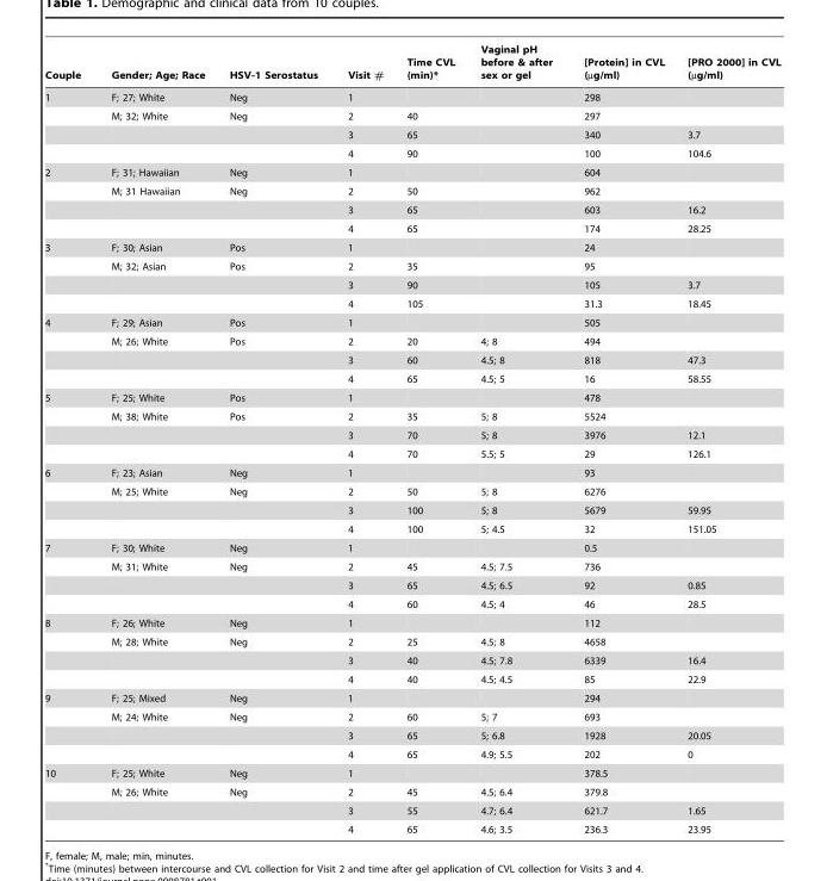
<table><thead><tr><td>Couple</td><td>Gender; Age; Race</td><td>HSV-1 Serostatus</td><td>Visit #</td><td>Time CVL (min)*</td><td>Vaginal pH before &amp; after sex or gel</td><td>[Protein] in CVL (µg/ml)</td><td>[PRO 2000] in CVL (µg/ml)</td></tr></thead><tbody><tr><td rowspan="4">1</td><td>F; 27; White</td><td>Neg</td><td>1</td><td></td><td></td><td>298</td><td></td></tr><tr><td>M; 32; White</td><td>Neg</td><td>2</td><td>40</td><td></td><td>297</td><td></td></tr><tr><td></td><td></td><td>3</td><td>65</td><td></td><td>340</td><td>3.7</td></tr><tr><td></td><td></td><td>4</td><td>90</td><td></td><td>100</td><td>104.6</td></tr><tr><td rowspan="4">2</td><td>F; 31; Hawaiian</td><td>Neg</td><td>1</td><td></td><td></td><td>604</td><td></td></tr><tr><td>M; 31 Hawaiian</td><td>Neg</td><td>2</td><td>50</td><td></td><td>962</td><td></td></tr><tr><td></td><td></td><td>3</td><td>65</td><td></td><td>603</td><td>16.2</td></tr><tr><td></td><td></td><td>4</td><td>65</td><td></td><td>174</td><td>28.25</td></tr><tr><td rowspan="4">3</td><td>F; 30; Asian</td><td>Pos</td><td>1</td><td></td><td></td><td>24</td><td></td></tr><tr><td>M; 32; Asian</td><td>Pos</td><td>2</td><td>35</td><td></td><td>95</td><td></td></tr><tr><td></td><td></td><td>3</td><td>90</td><td></td><td>105</td><td>3.7</td></tr><tr><td></td><td></td><td>4</td><td>105</td><td></td><td>31.3</td><td>18.45</td></tr><tr><td rowspan="4">4</td><td>F; 29; Asian</td><td>Pos</td><td>1</td><td></td><td></td><td>505</td><td></td></tr><tr><td>M; 26; White</td><td>Pos</td><td>2</td><td>20</td><td>4; 8</td><td>494</td><td></td></tr><tr><td></td><td></td><td>3</td><td>60</td><td>4.5; 8</td><td>818</td><td>47.3</td></tr><tr><td></td><td></td><td>4</td><td>65</td><td>4.5; 5</td><td>16</td><td>58.55</td></tr><tr><td rowspan="4">5</td><td>F; 25; White</td><td>Pos</td><td>1</td><td></td><td></td><td>478</td><td></td></tr><tr><td>M; 38; White</td><td>Pos</td><td>2</td><td>35</td><td>5; 8</td><td>5524</td><td></td></tr><tr><td></td><td></td><td>3</td><td>70</td><td>5; 8</td><td>3976</td><td>12.1</td></tr><tr><td></td><td></td><td>4</td><td>70</td><td>5.5; 5</td><td>29</td><td>126.1</td></tr><tr><td rowspan="4">6</td><td>F; 23; Asian</td><td>Neg</td><td>1</td><td></td><td></td><td>93</td><td></td></tr><tr><td>M; 25; White</td><td>Neg</td><td>2</td><td>50</td><td>5; 8</td><td>6276</td><td></td></tr><tr><td></td><td></td><td>3</td><td>100</td><td>5; 8</td><td>5679</td><td>59.95</td></tr><tr><td></td><td></td><td>4</td><td>100</td><td>5; 4.5</td><td>32</td><td>151.05</td></tr><tr><td rowspan="4">7</td><td>F; 30; White</td><td>Neg</td><td>1</td><td></td><td></td><td>0.5</td><td></td></tr><tr><td>M; 31; White</td><td>Neg</td><td>2</td><td>45</td><td>4.5; 7.5</td><td>736</td><td></td></tr><tr><td></td><td></td><td>3</td><td>65</td><td>4.5; 6.5</td><td>92</td><td>0.85</td></tr><tr><td></td><td></td><td>4</td><td>60</td><td>4.5; 4</td><td>46</td><td>28.5</td></tr><tr><td rowspan="4">8</td><td>F; 26; White</td><td>Neg</td><td>1</td><td></td><td></td><td>112</td><td></td></tr><tr><td>M; 28; White</td><td>Neg</td><td>2</td><td>25</td><td>4.5; 8</td><td>4658</td><td></td></tr><tr><td></td><td></td><td>3</td><td>40</td><td>4.5; 7.8</td><td>6339</td><td>16.4</td></tr><tr><td></td><td></td><td>4</td><td>40</td><td>4.5; 4.5</td><td>85</td><td>22.9</td></tr><tr><td rowspan="4">9</td><td>F; 25; Mixed</td><td>Neg</td><td>1</td><td></td><td></td><td>294</td><td></td></tr><tr><td>M; 24; White</td><td>Neg</td><td>2</td><td>60</td><td>5; 7</td><td>693</td><td></td></tr><tr><td></td><td></td><td>3</td><td>65</td><td>5; 6.8</td><td>1928</td><td>20.05</td></tr><tr><td></td><td></td><td>4</td><td>65</td><td>4.9; 5.5</td><td>202</td><td>0</td></tr><tr><td rowspan="4">10</td><td>F; 25; White</td><td>Neg</td><td>1</td><td></td><td></td><td>378.5</td><td></td></tr><tr><td>M; 26; White</td><td>Neg</td><td>2</td><td>45</td><td>4.5; 6.4</td><td>379.8</td><td></td></tr><tr><td></td><td></td><td>3</td><td>55</td><td>4.7; 6.4</td><td>621.7</td><td>1.65</td></tr><tr><td></td><td></td><td>4</td><td>65</td><td>4.6; 3.5</td><td>236.3</td><td>23.95</td></tr></tbody></table>